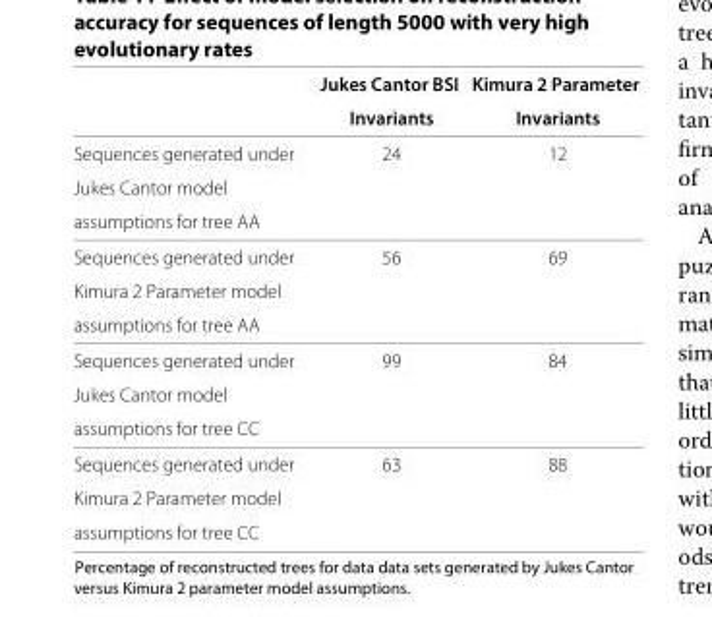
<table><thead><tr><td></td><td>Jukes Cantor BSI Invariants</td><td>Kimura 2 Parameter Invariants</td></tr></thead><tbody><tr><td>Sequences generated under Jukes Cantor model assumptions for tree AA</td><td>24</td><td>12</td></tr><tr><td>Sequences generated under Kimura 2 Parameter model assumptions for tree AA</td><td>56</td><td>69</td></tr><tr><td>Sequences generated under Jukes Cantor model assumptions for tree CC</td><td>99</td><td>84</td></tr><tr><td>Sequences generated under Kimura 2 Parameter model assumptions for tree CC</td><td>63</td><td>88</td></tr></tbody></table>